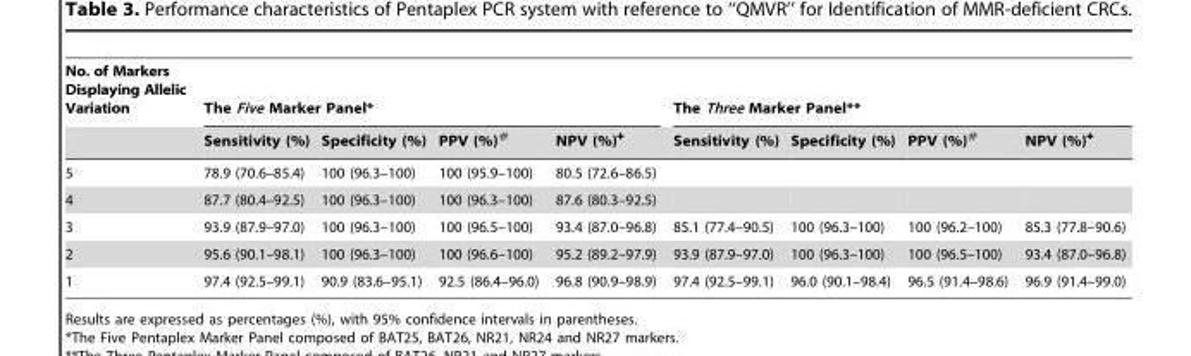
<table><thead><tr><td rowspan="2">No. of Markers Displaying Allelic Variation</td><td colspan="4">The Five Marker Panel*</td><td colspan="4">The Three Marker Panel**</td></tr><tr><td>Sensitivity (%)</td><td>Specificity (%)</td><td>PPV (%)#</td><td>NPV (%)+</td><td>Sensitivity (%)</td><td>Specificity (%)</td><td>PPV (%)#</td><td>NPV (%)+</td></tr></thead><tbody><tr><td>5</td><td>78.9 (70.6–85.4)</td><td>100 (96.3–100)</td><td>100 (95.9–100)</td><td>80.5 (72.6–86.5)</td><td></td><td></td><td></td><td></td></tr><tr><td>4</td><td>87.7 (80.4–92.5)</td><td>100 (96.3–100)</td><td>100 (96.3–100)</td><td>87.6 (80.3–92.5)</td><td></td><td></td><td></td><td></td></tr><tr><td>3</td><td>93.9 (87.9–97.0)</td><td>100 (96.3–100)</td><td>100 (96.5–100)</td><td>93.4 (87.0–96.8)</td><td>85.1 (77.4–90.5)</td><td>100 (96.3–100)</td><td>100 (96.2–100)</td><td>85.3 (77.8–90.6)</td></tr><tr><td>2</td><td>95.6 (90.1–98.1)</td><td>100 (96.3–100)</td><td>100 (96.6–100)</td><td>95.2 (89.2–97.9)</td><td>93.9 (87.9–97.0)</td><td>100 (96.3–100)</td><td>100 (96.5–100)</td><td>93.4 (87.0–96.8)</td></tr><tr><td>1</td><td>97.4 (92.5–99.1)</td><td>90.9 (83.6–95.1)</td><td>92.5 (86.4–96.0)</td><td>96.8 (90.9–98.9)</td><td>97.4 (92.5–99.1)</td><td>96.0 (90.1–98.4)</td><td>96.5 (91.4–98.6)</td><td>96.9 (91.4–99.0)</td></tr></tbody></table>